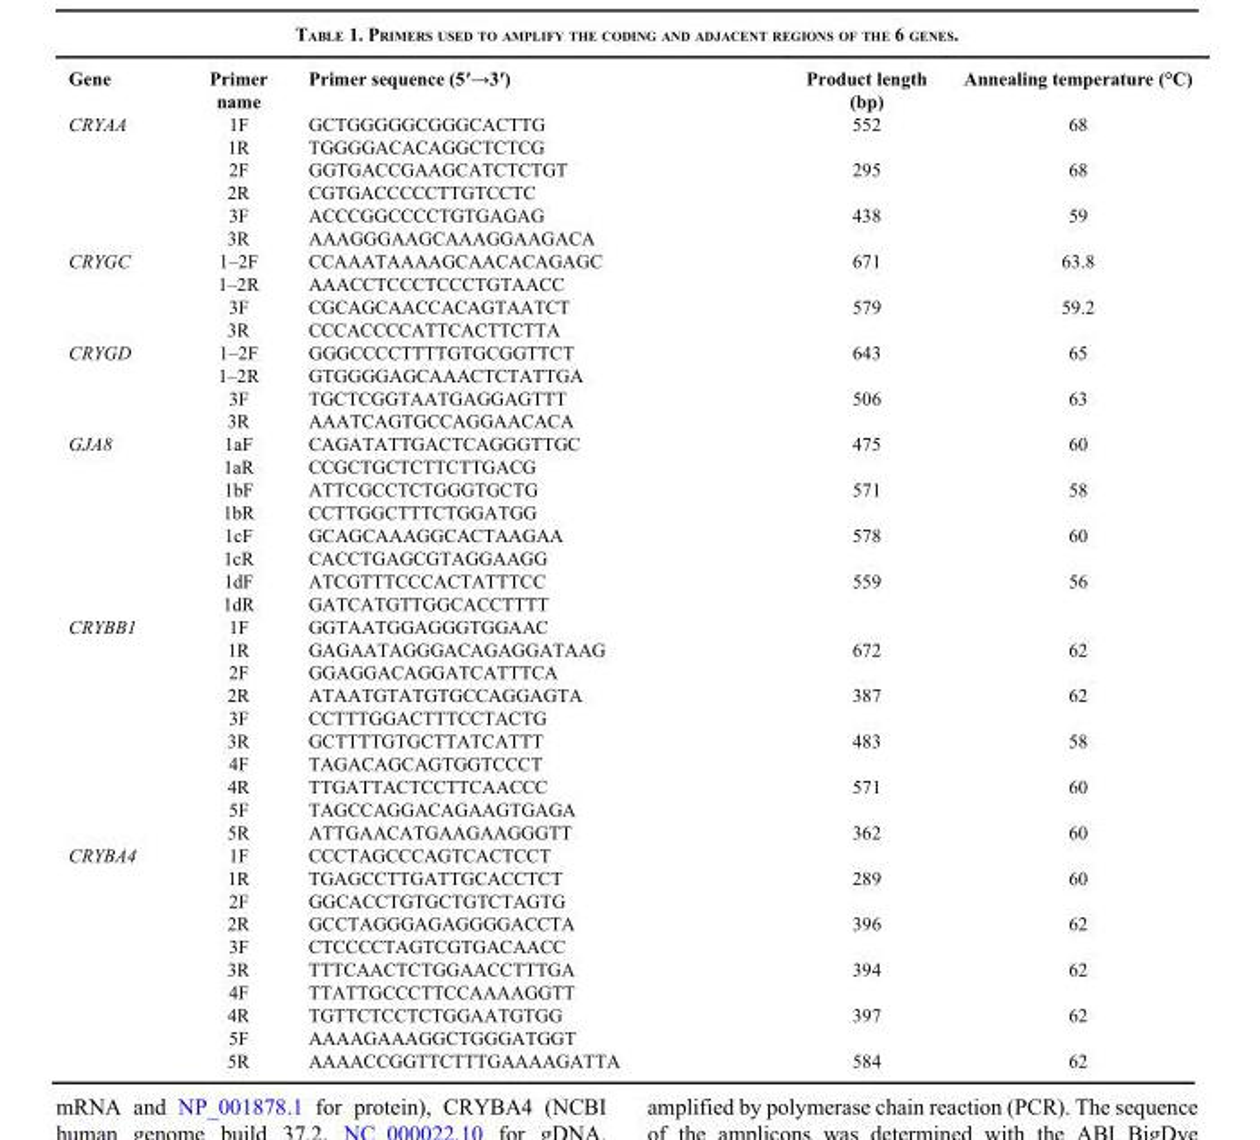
<table><thead><tr><td>Gene</td><td>Primer name</td><td>Primer sequence (5′→3′)</td><td>Product length (bp)</td><td>Annealing temperature (°C)</td></tr></thead><tbody><tr><td rowspan="6">CRYAA</td><td>1F</td><td>GCTGGGGGCGGGCACTTG</td><td>552</td><td>68</td></tr><tr><td>1R</td><td>TGGGGACACAGGCTCTCG</td><td></td><td></td></tr><tr><td>2F</td><td>GGTGACCGAAGCATCTCTGT</td><td>295</td><td>68</td></tr><tr><td>2R</td><td>CGTGACCCCCTTGTCCTC</td><td></td><td></td></tr><tr><td>3F</td><td>ACCCGGCCCCTGTGAGAG</td><td>438</td><td>59</td></tr><tr><td>3R</td><td>AAAGGGAAGCAAAGGAAGACA</td><td></td><td></td></tr><tr><td rowspan="4">CRYGC</td><td>1–2F</td><td>CCAAATAAAAGCAACACAGAGC</td><td>671</td><td>63.8</td></tr><tr><td>1–2R</td><td>AAACCTCCCTCCCTGTAACC</td><td></td><td></td></tr><tr><td>3F</td><td>CGCAGCAACCACAGTAATCT</td><td>579</td><td>59.2</td></tr><tr><td>3R</td><td>CCCACCCCATTCACTTCTTA</td><td></td><td></td></tr><tr><td rowspan="4">CRYGD</td><td>1–2F</td><td>GGGCCCCTTTTGTGCGGTTCT</td><td>643</td><td>65</td></tr><tr><td>1–2R</td><td>GTGGGGAGCAAACTCTATTGA</td><td></td><td></td></tr><tr><td>3F</td><td>TGCTCGGTAATGAGGAGTTT</td><td>506</td><td>63</td></tr><tr><td>3R</td><td>AAATCAGTGCCAGGAACACA</td><td></td><td></td></tr><tr><td rowspan="8">GJA8</td><td>1aF</td><td>CAGATATTGACTCAGGGTTGC</td><td>475</td><td>60</td></tr><tr><td>1aR</td><td>CCGCTGCTCTTCTTGACG</td><td></td><td></td></tr><tr><td>1bF</td><td>ATTCGCCTCTGGGTGCTG</td><td>571</td><td>58</td></tr><tr><td>1bR</td><td>CCTTGGCTTTCTGGATGG</td><td></td><td></td></tr><tr><td>1cF</td><td>GCAGCAAAGGCACTAAGAA</td><td>578</td><td>60</td></tr><tr><td>1cR</td><td>CACCTGAGCGTAGGAAGG</td><td></td><td></td></tr><tr><td>1dF</td><td>ATCGTTTCCCACTATTTCC</td><td>559</td><td>56</td></tr><tr><td>1dR</td><td>GATCATGTTGGCACCTTTT</td><td></td><td></td></tr><tr><td rowspan="10">CRYBB1</td><td>1F</td><td>GGTAATGGAGGGTGGAAC</td><td></td><td></td></tr><tr><td>1R</td><td>GAGAATAGGGACAGAGGATAAG</td><td>672</td><td>62</td></tr><tr><td>2F</td><td>GGAGGACAGGATCATTTCA</td><td></td><td></td></tr><tr><td>2R</td><td>ATAATGTATGTGCCAGGAGTA</td><td>387</td><td>62</td></tr><tr><td>3F</td><td>CCTTTGGACTTTCCTACTG</td><td></td><td></td></tr><tr><td>3R</td><td>GCTTTTGTGCTTATCATTT</td><td>483</td><td>58</td></tr><tr><td>4F</td><td>TAGACAGCAGTGGTCCCT</td><td></td><td></td></tr><tr><td>4R</td><td>TTGATTACTCCTTCAACCC</td><td>571</td><td>60</td></tr><tr><td>5F</td><td>TAGCCAGGACAGAAGTGAGA</td><td></td><td></td></tr><tr><td>5R</td><td>ATTGAACATGAAGAAGGGTT</td><td>362</td><td>60</td></tr><tr><td rowspan="10">CRYBA4</td><td>1F</td><td>CCCTAGCCCAGTCACTCCT</td><td></td><td></td></tr><tr><td>1R</td><td>TGAGCCTTGATTGCACCTCT</td><td>289</td><td>60</td></tr><tr><td>2F</td><td>GGCACCTGTGCTGTCTAGTG</td><td></td><td></td></tr><tr><td>2R</td><td>GCCTAGGGAGAGGGGACCTA</td><td>396</td><td>62</td></tr><tr><td>3F</td><td>CTCCCCTAGTCGTGACAACC</td><td></td><td></td></tr><tr><td>3R</td><td>TTTCAACTCTGGAACCTTTGA</td><td>394</td><td>62</td></tr><tr><td>4F</td><td>TTATTGCCCTTCCAAAAGGTT</td><td></td><td></td></tr><tr><td>4R</td><td>TGTTCTCCTCTGGAATGTGG</td><td>397</td><td>62</td></tr><tr><td>5F</td><td>AAAAGAAAGGCTGGGATGGT</td><td></td><td></td></tr><tr><td>5R</td><td>AAAACCGGTTCTTTGAAAAGATTA</td><td>584</td><td>62</td></tr></tbody></table>